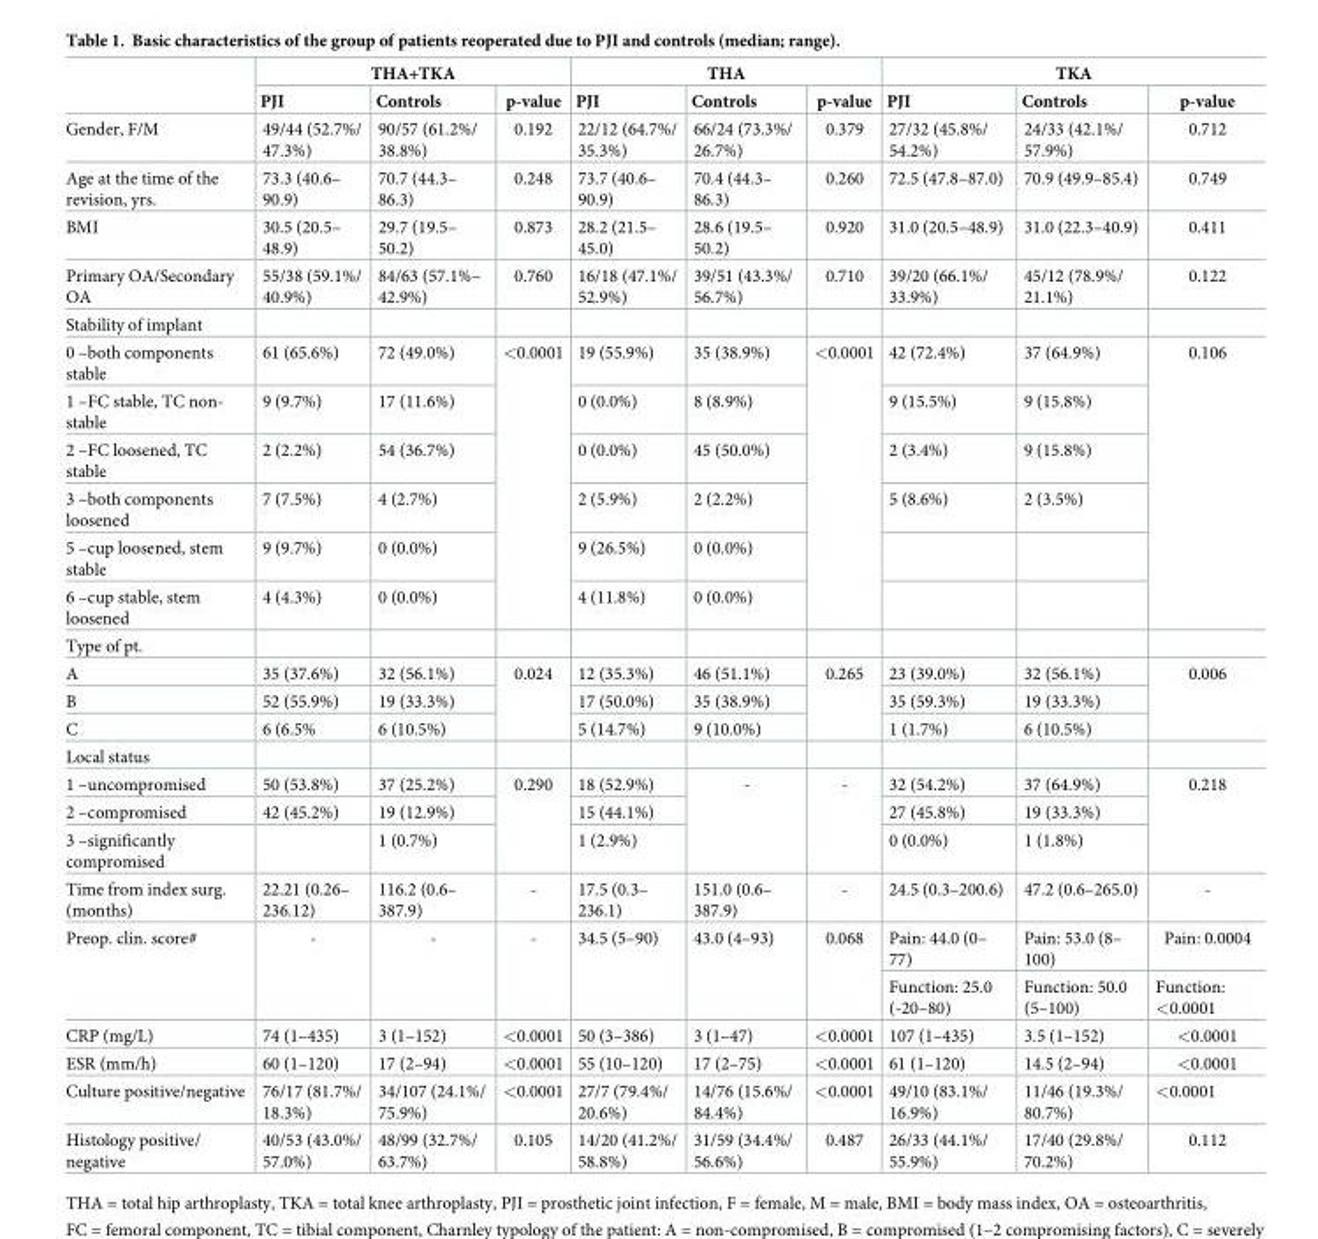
<table><thead><tr><td rowspan="2"></td><td colspan="3">THA+TKA</td><td colspan="3">THA</td><td colspan="3">TKA</td></tr><tr><td>PJI</td><td>Controls</td><td>p-value</td><td>PJI</td><td>Controls</td><td>p-value</td><td>PJI</td><td>Controls</td><td>p-value</td></tr></thead><tbody><tr><td>Gender, F/M</td><td>49/44 (52.7%/ 47.3%)</td><td>90/57 (61.2%/ 38.8%)</td><td>0.192</td><td>22/12 (64.7%/ 35.3%)</td><td>66/24 (73.3%/ 26.7%)</td><td>0.379</td><td>27/32 (45.8%/ 54.2%)</td><td>24/33 (42.1%/ 57.9%)</td><td>0.712</td></tr><tr><td>Age at the time of the revision, yrs.</td><td>73.3 (40.6– 90.9)</td><td>70.7 (44.3– 86.3)</td><td>0.248</td><td>73.7 (40.6– 90.9)</td><td>70.4 (44.3– 86.3)</td><td>0.260</td><td>72.5 (47.8–87.0)</td><td>70.9 (49.9–85.4)</td><td>0.749</td></tr><tr><td>BMI</td><td>30.5 (20.5– 48.9)</td><td>29.7 (19.5– 50.2)</td><td>0.873</td><td>28.2 (21.5– 45.0)</td><td>28.6 (19.5– 50.2)</td><td>0.920</td><td>31.0 (20.5–48.9)</td><td>31.0 (22.3–40.9)</td><td>0.411</td></tr><tr><td>Primary OA/Secondary OA</td><td>55/38 (59.1%/ 40.9%)</td><td>84/63 (57.1%– 42.9%)</td><td>0.760</td><td>16/18 (47.1%/ 52.9%)</td><td>39/51 (43.3%/ 56.7%)</td><td>0.710</td><td>39/20 (66.1%/ 33.9%)</td><td>45/12 (78.9%/ 21.1%)</td><td>0.122</td></tr><tr><td colspan="10">Stability of implant</td></tr><tr><td>0 –both components stable</td><td>61 (65.6%)</td><td>72 (49.0%)</td><td rowspan="6">&lt;0.0001</td><td>19 (55.9%)</td><td>35 (38.9%)</td><td rowspan="6">&lt;0.0001</td><td>42 (72.4%)</td><td>37 (64.9%)</td><td rowspan="6">0.106</td></tr><tr><td>1 –FC stable, TC non- stable</td><td>9 (9.7%)</td><td>17 (11.6%)</td><td>0 (0.0%)</td><td>8 (8.9%)</td><td>9 (15.5%)</td><td>9 (15.8%)</td></tr><tr><td>2 –FC loosened, TC stable</td><td>2 (2.2%)</td><td>54 (36.7%)</td><td>0 (0.0%)</td><td>45 (50.0%)</td><td>2 (3.4%)</td><td>9 (15.8%)</td></tr><tr><td>3 –both components loosened</td><td>7 (7.5%)</td><td>4 (2.7%)</td><td>2 (5.9%)</td><td>2 (2.2%)</td><td>5 (8.6%)</td><td>2 (3.5%)</td></tr><tr><td>5 –cup loosened, stem stable</td><td>9 (9.7%)</td><td>0 (0.0%)</td><td>9 (26.5%)</td><td>0 (0.0%)</td><td></td><td></td></tr><tr><td>6 –cup stable, stem loosened</td><td>4 (4.3%)</td><td>0 (0.0%)</td><td>4 (11.8%)</td><td>0 (0.0%)</td><td></td><td></td></tr><tr><td colspan="10">Type of pt.</td></tr><tr><td>A</td><td>35 (37.6%)</td><td>32 (56.1%)</td><td rowspan="3">0.024</td><td>12 (35.3%)</td><td>46 (51.1%)</td><td rowspan="3">0.265</td><td>23 (39.0%)</td><td>32 (56.1%)</td><td rowspan="3">0.006</td></tr><tr><td>B</td><td>52 (55.9%)</td><td>19 (33.3%)</td><td>17 (50.0%)</td><td>35 (38.9%)</td><td>35 (59.3%)</td><td>19 (33.3%)</td></tr><tr><td>C</td><td>6 (6.5%</td><td>6 (10.5%)</td><td>5 (14.7%)</td><td>9 (10.0%)</td><td>1 (1.7%)</td><td>6 (10.5%)</td></tr><tr><td colspan="10">Local status</td></tr><tr><td>1 –uncompromised</td><td>50 (53.8%)</td><td>37 (25.2%)</td><td rowspan="3">0.290</td><td>18 (52.9%)</td><td rowspan="3">-</td><td rowspan="3">-</td><td>32 (54.2%)</td><td>37 (64.9%)</td><td rowspan="3">0.218</td></tr><tr><td>2 –compromised</td><td>42 (45.2%)</td><td>19 (12.9%)</td><td>15 (44.1%)</td><td>27 (45.8%)</td><td>19 (33.3%)</td></tr><tr><td>3 –significantly compromised</td><td></td><td>1 (0.7%)</td><td>1 (2.9%)</td><td>0 (0.0%)</td><td>1 (1.8%)</td></tr><tr><td>Time from index surg. (months)</td><td>22.21 (0.26– 236.12)</td><td>116.2 (0.6– 387.9)</td><td>-</td><td>17.5 (0.3– 236.1)</td><td>151.0 (0.6– 387.9)</td><td>-</td><td>24.5 (0.3–200.6)</td><td>47.2 (0.6–265.0)</td><td>-</td></tr><tr><td rowspan="2">Preop. clin. score#</td><td rowspan="2">-</td><td rowspan="2">-</td><td rowspan="2">-</td><td rowspan="2">34.5 (5–90)</td><td rowspan="2">43.0 (4–93)</td><td rowspan="2">0.068</td><td>Pain: 44.0 (0– 77)</td><td>Pain: 53.0 (8– 100)</td><td>Pain: 0.0004</td></tr><tr><td>Function: 25.0 (-20–80)</td><td>Function: 50.0 (5–100)</td><td>Function: &lt;0.0001</td></tr><tr><td>CRP (mg/L)</td><td>74 (1–435)</td><td>3 (1–152)</td><td>&lt;0.0001</td><td>50 (3–386)</td><td>3 (1–47)</td><td>&lt;0.0001</td><td>107 (1–435)</td><td>3.5 (1–152)</td><td>&lt;0.0001</td></tr><tr><td>ESR (mm/h)</td><td>60 (1–120)</td><td>17 (2–94)</td><td>&lt;0.0001</td><td>55 (10–120)</td><td>17 (2–75)</td><td>&lt;0.0001</td><td>61 (1–120)</td><td>14.5 (2–94)</td><td>&lt;0.0001</td></tr><tr><td>Culture positive/negative</td><td>76/17 (81.7%/ 18.3%)</td><td>34/107 (24.1%/ 75.9%)</td><td>&lt;0.0001</td><td>27/7 (79.4%/ 20.6%)</td><td>14/76 (15.6%/ 84.4%)</td><td>&lt;0.0001</td><td>49/10 (83.1%/ 16.9%)</td><td>11/46 (19.3%/ 80.7%)</td><td>&lt;0.0001</td></tr><tr><td>Histology positive/ negative</td><td>40/53 (43.0%/ 57.0%)</td><td>48/99 (32.7%/ 63.7%)</td><td>0.105</td><td>14/20 (41.2%/ 58.8%)</td><td>31/59 (34.4%/ 56.6%)</td><td>0.487</td><td>26/33 (44.1%/ 55.9%)</td><td>17/40 (29.8%/ 70.2%)</td><td>0.112</td></tr></tbody></table>